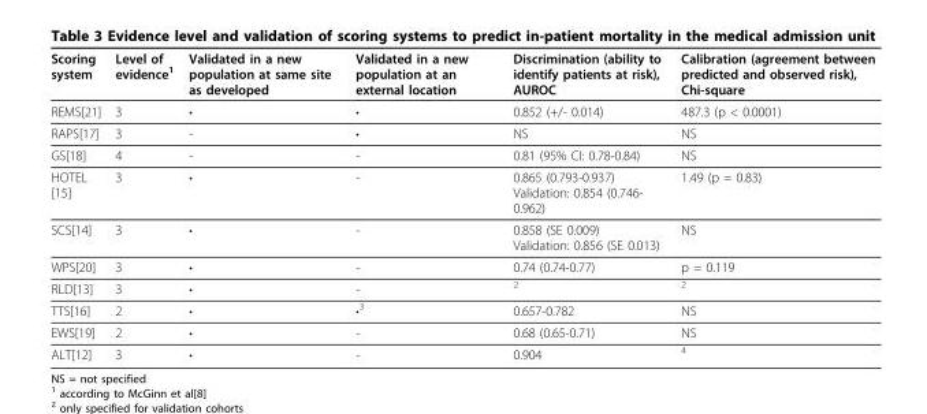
<table><thead><tr><td>Scoring system</td><td>Level of evidence1</td><td>Validated in a new population at same site as developed</td><td>Validated in a new population at an external location</td><td>Discrimination (ability to identify patients at risk), AUROC</td><td>Calibration (agreement between predicted and observed risk), Chi-square</td></tr></thead><tbody><tr><td>REMS[21]</td><td>3</td><td>•</td><td>•</td><td>0.852 (+/- 0.014)</td><td>487.3 (p &lt; 0.0001)</td></tr><tr><td>RAPS[17]</td><td>3</td><td>-</td><td>•</td><td>NS</td><td>NS</td></tr><tr><td>GS[18]</td><td>4</td><td>-</td><td>-</td><td>0.81 (95% CI: 0.78-0.84)</td><td>NS</td></tr><tr><td>HOTEL [15]</td><td>3</td><td>•</td><td>-</td><td>0.865 (0.793-0.937) Validation: 0.854 (0.746- 0.962)</td><td>1.49 (p = 0.83)</td></tr><tr><td>SCS[14]</td><td>3</td><td>•</td><td>-</td><td>0.858 (SE 0.009) Validation: 0.856 (SE 0.013)</td><td>NS</td></tr><tr><td>WPS[20]</td><td>3</td><td>•</td><td>-</td><td>0.74 (0.74-0.77)</td><td>p = 0.119</td></tr><tr><td>RLD[13]</td><td>3</td><td>•</td><td>-</td><td>2</td><td>2</td></tr><tr><td>TTS[16]</td><td>2</td><td>•</td><td>•3</td><td>0.657-0.782</td><td>NS</td></tr><tr><td>EWS[19]</td><td>2</td><td>•</td><td>-</td><td>0.68 (0.65-0.71)</td><td>NS</td></tr><tr><td>ALT[12]</td><td>3</td><td>•</td><td>-</td><td>0.904</td><td>4</td></tr></tbody></table>